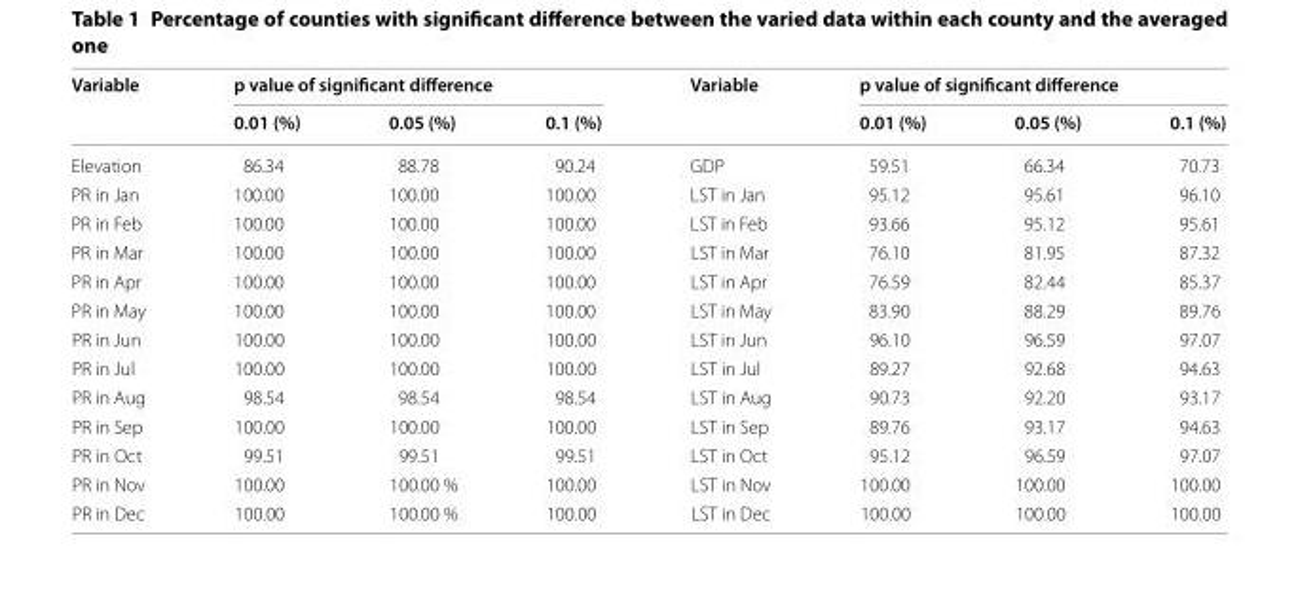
<table><thead><tr><td rowspan="2">Variable</td><td colspan="3">p value of significant difference</td><td rowspan="2">Variable</td><td colspan="3">p value of significant difference</td></tr><tr><td>0.01 (%)</td><td>0.05 (%)</td><td>0.1 (%)</td><td>0.01 (%)</td><td>0.05 (%)</td><td>0.1 (%)</td></tr></thead><tbody><tr><td>Elevation</td><td>86.34</td><td>88.78</td><td>90.24</td><td>GDP</td><td>59.51</td><td>66.34</td><td>70.73</td></tr><tr><td>PR in Jan</td><td>100.00</td><td>100.00</td><td>100.00</td><td>LST in Jan</td><td>95.12</td><td>95.61</td><td>96.10</td></tr><tr><td>PR in Feb</td><td>100.00</td><td>100.00</td><td>100.00</td><td>LST in Feb</td><td>93.66</td><td>95.12</td><td>95.61</td></tr><tr><td>PR in Mar</td><td>100.00</td><td>100.00</td><td>100.00</td><td>LST in Mar</td><td>76.10</td><td>81.95</td><td>87.32</td></tr><tr><td>PR in Apr</td><td>100.00</td><td>100.00</td><td>100.00</td><td>LST in Apr</td><td>76.59</td><td>82.44</td><td>85.37</td></tr><tr><td>PR in May</td><td>100.00</td><td>100.00</td><td>100.00</td><td>LST in May</td><td>83.90</td><td>88.29</td><td>89.76</td></tr><tr><td>PR in Jun</td><td>100.00</td><td>100.00</td><td>100.00</td><td>LST in Jun</td><td>96.10</td><td>96.59</td><td>97.07</td></tr><tr><td>PR in Jul</td><td>100.00</td><td>100.00</td><td>100.00</td><td>LST in Jul</td><td>89.27</td><td>92.68</td><td>94.63</td></tr><tr><td>PR in Aug</td><td>98.54</td><td>98.54</td><td>98.54</td><td>LST in Aug</td><td>90.73</td><td>92.20</td><td>93.17</td></tr><tr><td>PR in Sep</td><td>100.00</td><td>100.00</td><td>100.00</td><td>LST in Sep</td><td>89.76</td><td>93.17</td><td>94.63</td></tr><tr><td>PR in Oct</td><td>99.51</td><td>99.51</td><td>99.51</td><td>LST in Oct</td><td>95.12</td><td>96.59</td><td>97.07</td></tr><tr><td>PR in Nov</td><td>100.00</td><td>100.00 %</td><td>100.00</td><td>LST in Nov</td><td>100.00</td><td>100.00</td><td>100.00</td></tr><tr><td>PR in Dec</td><td>100.00</td><td>100.00 %</td><td>100.00</td><td>LST in Dec</td><td>100.00</td><td>100.00</td><td>100.00</td></tr></tbody></table>